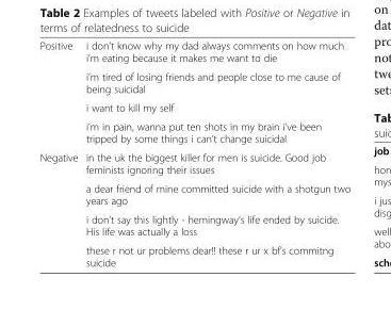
<table><tbody><tr><td rowspan="4">Positive</td><td>i don’t know why my dad always comments on how much i’m eating because it makes me want to die</td></tr><tr><td>i’m tired of losing friends and people close to me cause of being suicidal</td></tr><tr><td>i want to kill my self</td></tr><tr><td>i’m in pain, wanna put ten shots in my brain i’ve been tripped by some things i can’t change suicidal</td></tr><tr><td rowspan="4">Negative</td><td>in the uk the biggest killer for men is suicide. Good job feminists ignoring their issues</td></tr><tr><td>a dear friend of mine committed suicide with a shotgun two years ago</td></tr><tr><td>i don’t say this lightly - hemingway’s life ended by suicide. His life was actually a loss</td></tr><tr><td>these r not ur problems dear!! these r ur x bf’s commitng suicide</td></tr></tbody></table>